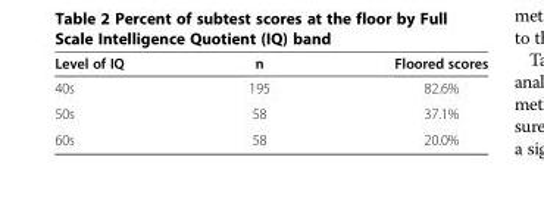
<table><thead><tr><td>Level of IQ</td><td>n</td><td>Floored scores</td></tr></thead><tbody><tr><td>40s</td><td>195</td><td>82.6%</td></tr><tr><td>50s</td><td>58</td><td>37.1%</td></tr><tr><td>60s</td><td>58</td><td>20.0%</td></tr></tbody></table>